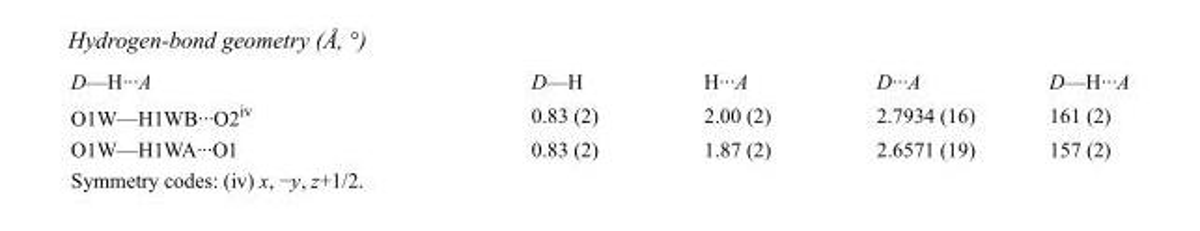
<table><tbody><tr><td>D—H···A</td><td>D—H</td><td>H···A</td><td>D···A</td><td>D—H···A</td></tr><tr><td>O1W—H1WB···O2<sup>iv</sup></td><td>0.83 (2)</td><td>2.00 (2)</td><td>2.7934 (16)</td><td>161 (2)</td></tr><tr><td>O1W—H1WA···O1</td><td>0.83 (2)</td><td>1.87 (2)</td><td>2.6571 (19)</td><td>157 (2)</td></tr></tbody></table>